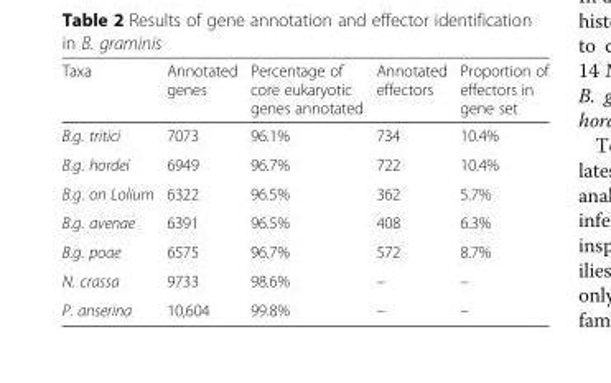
<table><thead><tr><td>Taxa</td><td>Annotated genes</td><td>Percentage of core eukaryotic genes annotated</td><td>Annotated effectors</td><td>Proportion of effectors in gene set</td></tr></thead><tbody><tr><td>B.g. tritici</td><td>7073</td><td>96.1%</td><td>734</td><td>10.4%</td></tr><tr><td>B.g. hordei</td><td>6949</td><td>96.7%</td><td>722</td><td>10.4%</td></tr><tr><td>B.g. on Lolium</td><td>6322</td><td>96.5%</td><td>362</td><td>5.7%</td></tr><tr><td>B.g. avenae</td><td>6391</td><td>96.5%</td><td>408</td><td>6.3%</td></tr><tr><td>B.g. poae</td><td>6575</td><td>96.7%</td><td>572</td><td>8.7%</td></tr><tr><td>N. crassa</td><td>9733</td><td>98.6%</td><td>–</td><td>–</td></tr><tr><td>P. anserina</td><td>10,604</td><td>99.8%</td><td>–</td><td>–</td></tr></tbody></table>